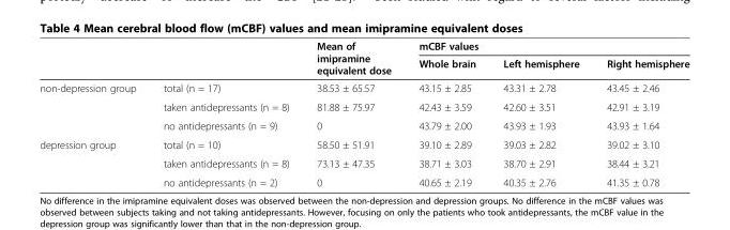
<table><thead><tr><td rowspan="2"></td><td rowspan="2"></td><td rowspan="2">Mean of imipramine equivalent dose</td><td colspan="3">mCBF values</td></tr><tr><td>Whole brain</td><td>Left hemisphere</td><td>Right hemisphere</td></tr></thead><tbody><tr><td rowspan="3">non-depression group</td><td>total (n = 17)</td><td>38.53 ± 65.57</td><td>43.15 ± 2.85</td><td>43.31 ± 2.78</td><td>43.45 ± 2.46</td></tr><tr><td>taken antidepressants (n = 8)</td><td>81.88 ± 75.97</td><td>42.43 ± 3.59</td><td>42.60 ± 3.51</td><td>42.91 ± 3.19</td></tr><tr><td>no antidepressants (n = 9)</td><td>0</td><td>43.79 ± 2.00</td><td>43.93 ± 1.93</td><td>43.93 ± 1.64</td></tr><tr><td rowspan="3">depression group</td><td>total (n = 10)</td><td>58.50 ± 51.91</td><td>39.10 ± 2.89</td><td>39.03 ± 2.82</td><td>39.02 ± 3.10</td></tr><tr><td>taken antidepressants (n = 8)</td><td>73.13 ± 47.35</td><td>38.71 ± 3.03</td><td>38.70 ± 2.91</td><td>38.44 ± 3.21</td></tr><tr><td>no antidepressants (n = 2)</td><td>0</td><td>40.65 ± 2.19</td><td>40.35 ± 2.76</td><td>41.35 ± 0.78</td></tr></tbody></table>